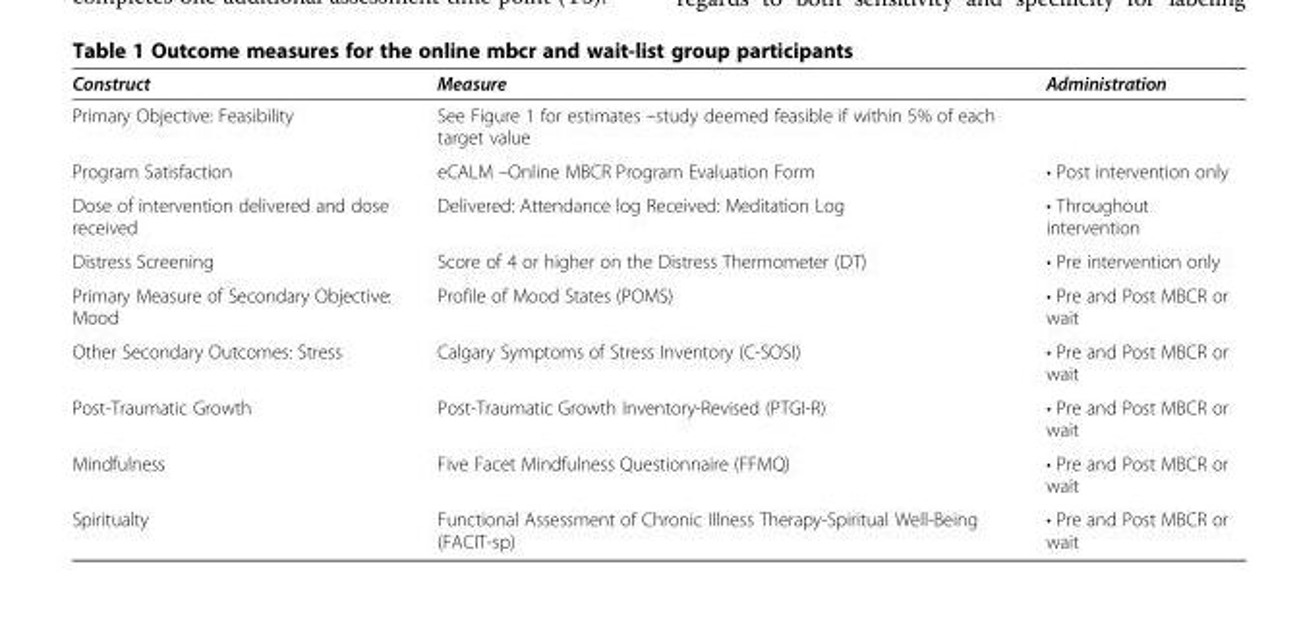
<table><thead><tr><td>Construct</td><td>Measure</td><td>Administration</td></tr></thead><tbody><tr><td>Primary Objective: Feasibility</td><td>See Figure 1 for estimates –study deemed feasible if within 5% of each target value</td><td></td></tr><tr><td>Program Satisfaction</td><td>eCALM –Online MBCR Program Evaluation Form</td><td>• Post intervention only</td></tr><tr><td>Dose of intervention delivered and dose received</td><td>Delivered: Attendance log Received: Meditation Log</td><td>• Throughout intervention</td></tr><tr><td>Distress Screening</td><td>Score of 4 or higher on the Distress Thermometer (DT)</td><td>• Pre intervention only</td></tr><tr><td>Primary Measure of Secondary Objective: Mood</td><td>Profile of Mood States (POMS)</td><td>• Pre and Post MBCR or wait</td></tr><tr><td>Other Secondary Outcomes: Stress</td><td>Calgary Symptoms of Stress Inventory (C-SOSI)</td><td>• Pre and Post MBCR or wait</td></tr><tr><td>Post-Traumatic Growth</td><td>Post-Traumatic Growth Inventory-Revised (PTGI-R)</td><td>• Pre and Post MBCR or wait</td></tr><tr><td>Mindfulness</td><td>Five Facet Mindfulness Questionnaire (FFMQ)</td><td>• Pre and Post MBCR or wait</td></tr><tr><td>Spiritualty</td><td>Functional Assessment of Chronic Illness Therapy-Spiritual Well-Being (FACIT-sp)</td><td>• Pre and Post MBCR or wait</td></tr></tbody></table>